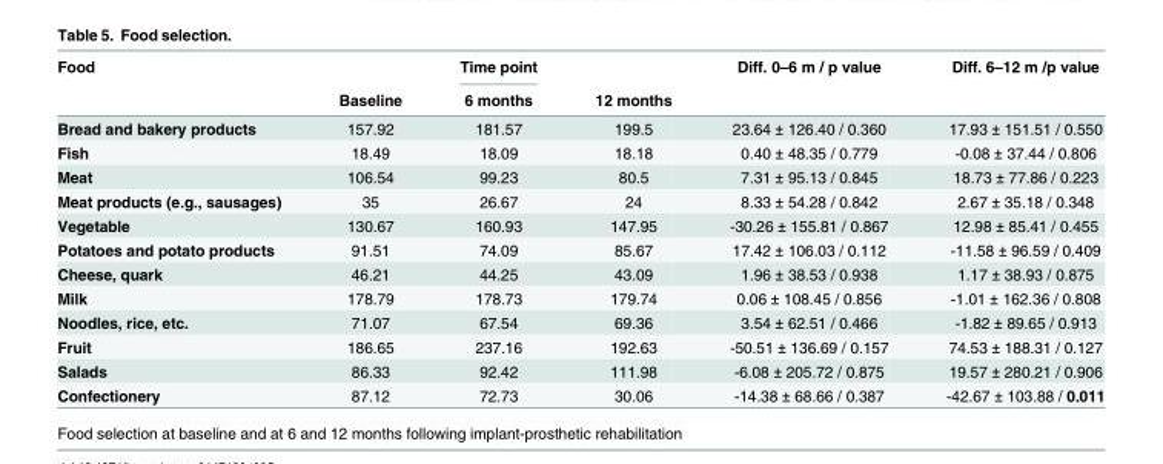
<table><thead><tr><td rowspan="2">Food</td><td rowspan="2">Baseline</td><td rowspan="2">Time point 6 months</td><td rowspan="2">12 months</td><td rowspan="2">Diff. 0–6 m / p value</td><td rowspan="2">Diff. 6–12 m /p value</td></tr><tr></tr></thead><tbody><tr><td>Bread and bakery products</td><td>157.92</td><td>181.57</td><td>199.5</td><td>23.64 ± 126.40 / 0.360</td><td>17.93 ± 151.51 / 0.550</td></tr><tr><td>Fish</td><td>18.49</td><td>18.09</td><td>18.18</td><td>0.40 ± 48.35 / 0.779</td><td>-0.08 ± 37.44 / 0.806</td></tr><tr><td>Meat</td><td>106.54</td><td>99.23</td><td>80.5</td><td>7.31 ± 95.13 / 0.845</td><td>18.73 ± 77.86 / 0.223</td></tr><tr><td>Meat products (e.g., sausages)</td><td>35</td><td>26.67</td><td>24</td><td>8.33 ± 54.28 / 0.842</td><td>2.67 ± 35.18 / 0.348</td></tr><tr><td>Vegetable</td><td>130.67</td><td>160.93</td><td>147.95</td><td>-30.26 ± 155.81 / 0.867</td><td>12.98 ± 85.41 / 0.455</td></tr><tr><td>Potatoes and potato products</td><td>91.51</td><td>74.09</td><td>85.67</td><td>17.42 ± 106.03 / 0.112</td><td>-11.58 ± 96.59 / 0.409</td></tr><tr><td>Cheese, quark</td><td>46.21</td><td>44.25</td><td>43.09</td><td>1.96 ± 38.53 / 0.938</td><td>1.17 ± 38.93 / 0.875</td></tr><tr><td>Milk</td><td>178.79</td><td>178.73</td><td>179.74</td><td>0.06 ± 108.45 / 0.856</td><td>-1.01 ± 162.36 / 0.808</td></tr><tr><td>Noodles, rice, etc.</td><td>71.07</td><td>67.54</td><td>69.36</td><td>3.54 ± 62.51 / 0.466</td><td>-1.82 ± 89.65 / 0.913</td></tr><tr><td>Fruit</td><td>186.65</td><td>237.16</td><td>192.63</td><td>-50.51 ± 136.69 / 0.157</td><td>74.53 ± 188.31 / 0.127</td></tr><tr><td>Salads</td><td>86.33</td><td>92.42</td><td>111.98</td><td>-6.08 ± 205.72 / 0.875</td><td>19.57 ± 280.21 / 0.906</td></tr><tr><td>Confectionery</td><td>87.12</td><td>72.73</td><td>30.06</td><td>-14.38 ± 68.66 / 0.387</td><td>-42.67 ± 103.88 / 0.011</td></tr></tbody></table>